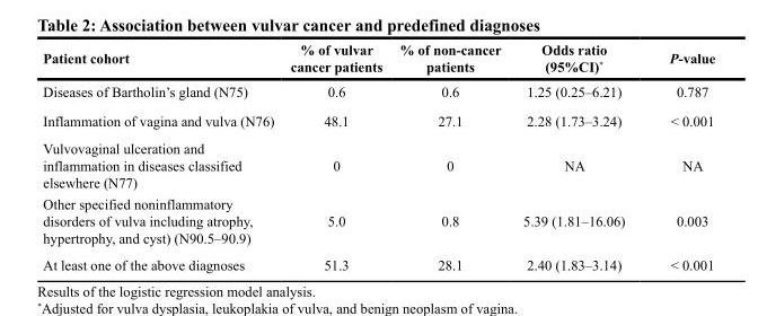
<table><thead><tr><td>Patient cohort</td><td>% of vulvar cancer patients</td><td>% of non-cancer patients</td><td>Odds ratio (95%CI)*</td><td>P-value</td></tr></thead><tbody><tr><td>Diseases of Bartholin’s gland (N75)</td><td>0.6</td><td>0.6</td><td>1.25 (0.25–6.21)</td><td>0.787</td></tr><tr><td>Inflammation of vagina and vulva (N76)</td><td>48.1</td><td>27.1</td><td>2.28 (1.73–3.24)</td><td>&lt; 0.001</td></tr><tr><td>Vulvovaginal ulceration and inflammation in diseases classified elsewhere (N77)</td><td>0</td><td>0</td><td>NA</td><td>NA</td></tr><tr><td>Other specified noninflammatory disorders of vulva including atrophy, hypertrophy, and cyst) (N90.5–90.9)</td><td>5.0</td><td>0.8</td><td>5.39 (1.81–16.06)</td><td>0.003</td></tr><tr><td>At least one of the above diagnoses</td><td>51.3</td><td>28.1</td><td>2.40 (1.83–3.14)</td><td>&lt; 0.001</td></tr></tbody></table>